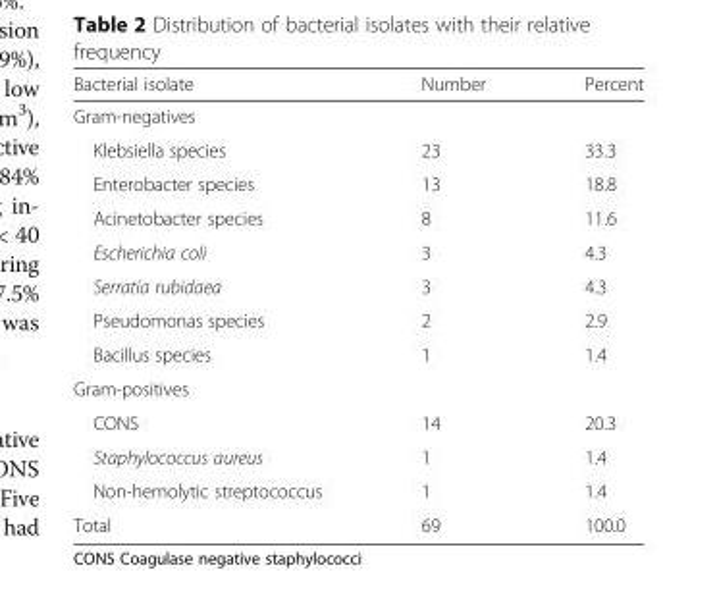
<table><thead><tr><td>Bacterial isolate</td><td>Number</td><td>Percent</td></tr></thead><tbody><tr><td colspan="3">Gram-negatives</td></tr><tr><td>Klebsiella species</td><td>23</td><td>33.3</td></tr><tr><td>Enterobacter species</td><td>13</td><td>18.8</td></tr><tr><td>Acinetobacter species</td><td>8</td><td>11.6</td></tr><tr><td>Escherichia coli</td><td>3</td><td>4.3</td></tr><tr><td>Serratia rubidaea</td><td>3</td><td>4.3</td></tr><tr><td>Pseudomonas species</td><td>2</td><td>2.9</td></tr><tr><td>Bacillus species</td><td>1</td><td>1.4</td></tr><tr><td colspan="3">Gram-positives</td></tr><tr><td>CONS</td><td>14</td><td>20.3</td></tr><tr><td>Staphylococcus aureus</td><td>1</td><td>1.4</td></tr><tr><td>Non-hemolytic streptococcus</td><td>1</td><td>1.4</td></tr><tr><td>Total</td><td>69</td><td>100.0</td></tr></tbody></table>